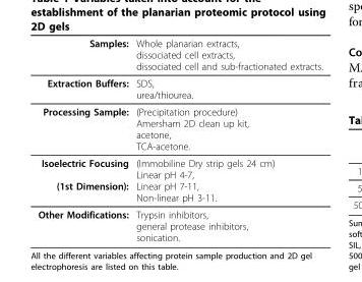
<table><thead><tr><td>Samples:</td><td>Whole planarian extracts, dissociated cell extracts, dissociated cell and sub-fractionated extracts.</td></tr></thead><tbody><tr><td>Extraction Buffers:</td><td>SDS, urea/thiourea.</td></tr><tr><td>Processing Sample:</td><td>(Precipitation procedure) Amersham 2D clean up kit, acetone, TCA-acetone.</td></tr><tr><td>Isoelectric Focusing (1st Dimension):</td><td>(Immobiline Dry strip gels 24 cm) Linear pH 4-7, Linear pH 7-11, Non-linear pH 3-11.</td></tr><tr><td>Other Modifications:</td><td>Trypsin inhibitors, general protease inhibitors, sonication.</td></tr></tbody></table>